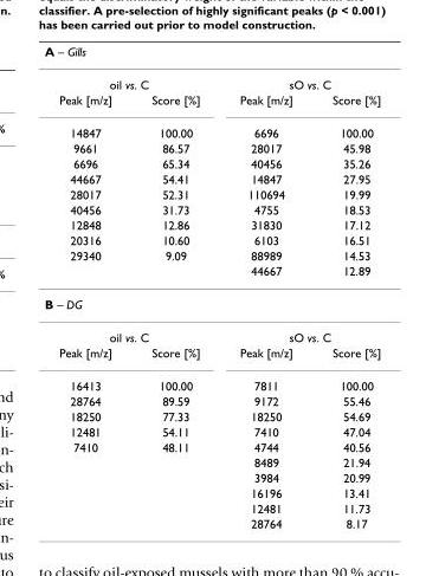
<table><thead><tr><td colspan="4">A – Gills</td></tr><tr><td colspan="2">oil vs. C</td><td colspan="2">sO vs. C</td></tr><tr><td>Peak [m/z]</td><td>Score [%]</td><td>Peak [m/z]</td><td>Score [%]</td></tr></thead><tbody><tr><td>14847</td><td>100.00</td><td>6696</td><td>100.00</td></tr><tr><td>9661</td><td>86.57</td><td>28017</td><td>45.98</td></tr><tr><td>6696</td><td>65.34</td><td>40456</td><td>35.26</td></tr><tr><td>44667</td><td>54.41</td><td>14847</td><td>27.95</td></tr><tr><td>28017</td><td>52.31</td><td>110694</td><td>19.99</td></tr><tr><td>40456</td><td>31.73</td><td>4755</td><td>18.53</td></tr><tr><td>12848</td><td>12.86</td><td>31830</td><td>17.12</td></tr><tr><td>20316</td><td>10.60</td><td>6103</td><td>16.51</td></tr><tr><td rowspan="2">29340</td><td>9.09</td><td>88989</td><td>14.53</td></tr><tr><td></td><td>44667</td><td>12.89</td></tr><tr><td colspan="4">B – DG</td></tr><tr><td colspan="2">oil vs. C</td><td colspan="2">sO vs. C</td></tr><tr><td>Peak [m/z]</td><td>Score [%]</td><td>Peak [m/z]</td><td>Score [%]</td></tr><tr><td>16413</td><td>100.00</td><td>7811</td><td>100.00</td></tr><tr><td>28764</td><td>89.59</td><td>9172</td><td>55.46</td></tr><tr><td>18250</td><td>77.33</td><td>18250</td><td>54.69</td></tr><tr><td>12481</td><td>54.11</td><td>7410</td><td>47.04</td></tr><tr><td rowspan="6">7410</td><td>48.11</td><td>4744</td><td>40.56</td></tr><tr><td></td><td>8489</td><td>21.94</td></tr><tr><td></td><td>3984</td><td>20.99</td></tr><tr><td></td><td>16196</td><td>13.41</td></tr><tr><td></td><td>12481</td><td>11.73</td></tr><tr><td></td><td>28764</td><td>8.17</td></tr></tbody></table>